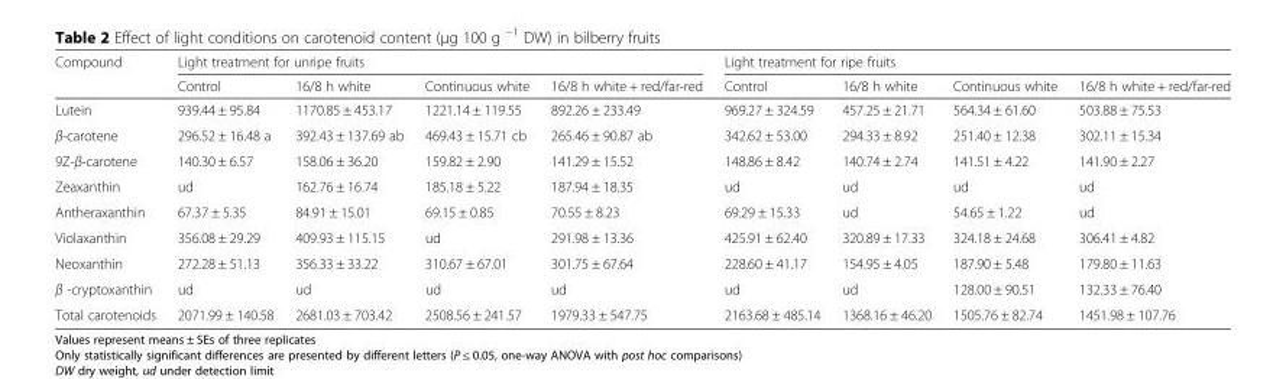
<table><thead><tr><td rowspan="2">Compound</td><td colspan="4">Light treatment for unripe fruits</td><td colspan="4">Light treatment for ripe fruits</td></tr><tr><td>Control</td><td>16/8 h white</td><td>Continuous white</td><td>16/8 h white + red/far-red</td><td>Control</td><td>16/8 h white</td><td>Continuous white</td><td>16/8 h white + red/far-red</td></tr></thead><tbody><tr><td>Lutein</td><td>939.44 ± 95.84</td><td>1170.85 ± 453.17</td><td>1221.14 ± 119.55</td><td>892.26 ± 233.49</td><td>969.27 ± 324.59</td><td>457.25 ± 21.71</td><td>564.34 ± 61.60</td><td>503.88 ± 75.53</td></tr><tr><td>β-carotene</td><td>296.52 ± 16.48 a</td><td>392.43 ± 137.69 ab</td><td>469.43 ± 15.71 cb</td><td>265.46 ± 90.87 ab</td><td>342.62 ± 53.00</td><td>294.33 ± 8.92</td><td>251.40 ± 12.38</td><td>302.11 ± 15.34</td></tr><tr><td>9Z-β-carotene</td><td>140.30 ± 6.57</td><td>158.06 ± 36.20</td><td>159.82 ± 2.90</td><td>141.29 ± 15.52</td><td>148.86 ± 8.42</td><td>140.74 ± 2.74</td><td>141.51 ± 4.22</td><td>141.90 ± 2.27</td></tr><tr><td>Zeaxanthin</td><td>ud</td><td>162.76 ± 16.74</td><td>185.18 ± 5.22</td><td>187.94 ± 18.35</td><td>ud</td><td>ud</td><td>ud</td><td>ud</td></tr><tr><td>Antheraxanthin</td><td>67.37 ± 5.35</td><td>84.91 ± 15.01</td><td>69.15 ± 0.85</td><td>70.55 ± 8.23</td><td>69.29 ± 15.33</td><td>ud</td><td>54.65 ± 1.22</td><td>ud</td></tr><tr><td>Violaxanthin</td><td>356.08 ± 29.29</td><td>409.93 ± 115.15</td><td>ud</td><td>291.98 ± 13.36</td><td>425.91 ± 62.40</td><td>320.89 ± 17.33</td><td>324.18 ± 24.68</td><td>306.41 ± 4.82</td></tr><tr><td>Neoxanthin</td><td>272.28 ± 51.13</td><td>356.33 ± 33.22</td><td>310.67 ± 67.01</td><td>301.75 ± 67.64</td><td>228.60 ± 41.17</td><td>154.95 ± 4.05</td><td>187.90 ± 5.48</td><td>179.80 ± 11.63</td></tr><tr><td>β -cryptoxanthin</td><td>ud</td><td>ud</td><td>ud</td><td>ud</td><td>ud</td><td>ud</td><td>128.00 ± 90.51</td><td>132.33 ± 76.40</td></tr><tr><td>Total carotenoids</td><td>2071.99 ± 140.58</td><td>2681.03 ± 703.42</td><td>2508.56 ± 241.57</td><td>1979.33 ± 547.75</td><td>2163.68 ± 485.14</td><td>1368.16 ± 46.20</td><td>1505.76 ± 82.74</td><td>1451.98 ± 107.76</td></tr></tbody></table>